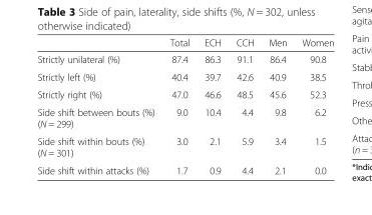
<table><thead><tr><td></td><td>Total</td><td>ECH</td><td>CCH</td><td>Men</td><td>Women</td></tr></thead><tbody><tr><td>Strictly unilateral (%)</td><td>87.4</td><td>86.3</td><td>91.1</td><td>86.4</td><td>90.8</td></tr><tr><td>Strictly left (%)</td><td>40.4</td><td>39.7</td><td>42.6</td><td>40.9</td><td>38.5</td></tr><tr><td>Strictly right (%)</td><td>47.0</td><td>46.6</td><td>48.5</td><td>45.6</td><td>52.3</td></tr><tr><td>Side shift between bouts (%) (N = 299)</td><td>9.0</td><td>10.4</td><td>4.4</td><td>9.8</td><td>6.2</td></tr><tr><td>Side shift within bouts (%) (N = 301)</td><td>3.0</td><td>2.1</td><td>5.9</td><td>3.4</td><td>1.5</td></tr><tr><td>Side shift within attacks (%)</td><td>1.7</td><td>0.9</td><td>4.4</td><td>2.1</td><td>0.0</td></tr></tbody></table>